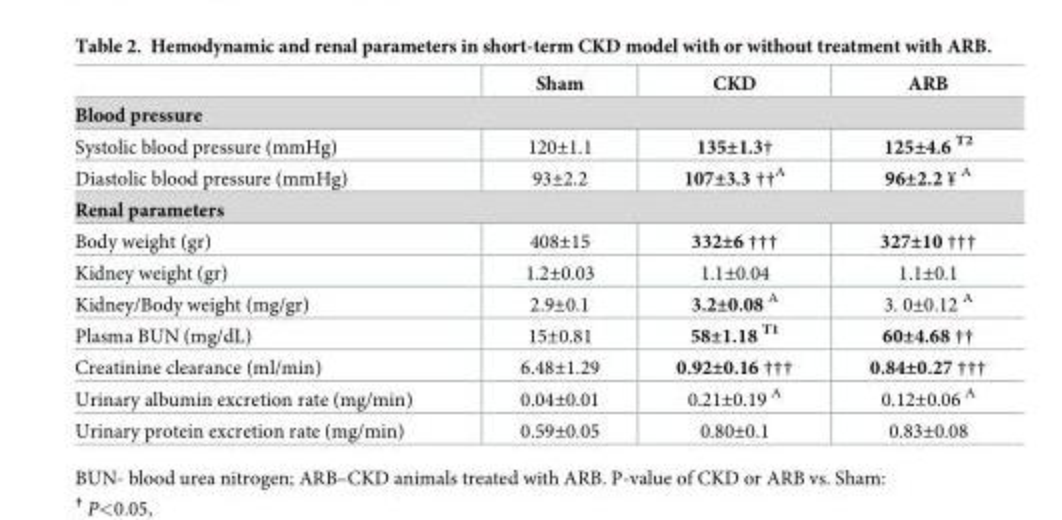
<table><thead><tr><td></td><td>Sham</td><td>CKD</td><td>ARB</td></tr></thead><tbody><tr><td colspan="4">Blood pressure</td></tr><tr><td>Systolic blood pressure (mmHg)</td><td>120±1.1</td><td>135±1.3†</td><td>125±4.6 <sup>T2</sup></td></tr><tr><td>Diastolic blood pressure (mmHg)</td><td>93±2.2</td><td>107±3.3 ††<sup>A</sup></td><td>96±2.2 ¥ <sup>A</sup></td></tr><tr><td colspan="4">Renal parameters</td></tr><tr><td>Body weight (gr)</td><td>408±15</td><td>332±6 †††</td><td>327±10 †††</td></tr><tr><td>Kidney weight (gr)</td><td>1.2±0.03</td><td>1.1±0.04</td><td>1.1±0.1</td></tr><tr><td>Kidney/Body weight (mg/gr)</td><td>2.9±0.1</td><td>3.2±0.08 <sup>A</sup></td><td>3. 0±0.12 <sup>A</sup></td></tr><tr><td>Plasma BUN (mg/dL)</td><td>15±0.81</td><td>58±1.18 <sup>T1</sup></td><td>60±4.68 ††</td></tr><tr><td>Creatinine clearance (ml/min)</td><td>6.48±1.29</td><td>0.92±0.16 †††</td><td>0.84±0.27 †††</td></tr><tr><td>Urinary albumin excretion rate (mg/min)</td><td>0.04±0.01</td><td>0.21±0.19 <sup>A</sup></td><td>0.12±0.06 <sup>A</sup></td></tr><tr><td>Urinary protein excretion rate (mg/min)</td><td>0.59±0.05</td><td>0.80±0.1</td><td>0.83±0.08</td></tr></tbody></table>